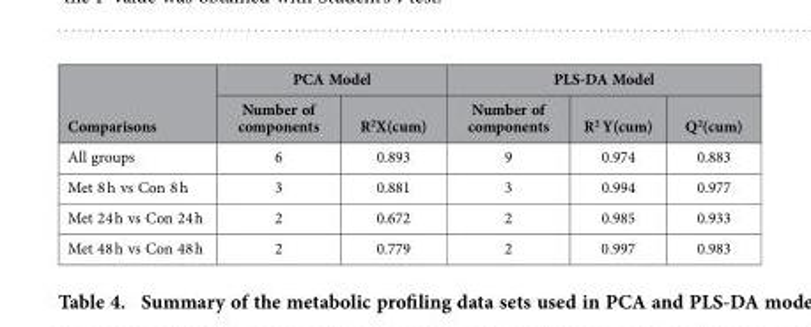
<table><thead><tr><td rowspan="2">Comparisons</td><td colspan="2">PCA Model</td><td colspan="3">PLS-DA Model</td></tr><tr><td>Number of components</td><td>R<sup>2</sup>X(cum)</td><td>Number of components</td><td>R<sup>2</sup> Y(cum)</td><td>Q<sup>2</sup>(cum)</td></tr></thead><tbody><tr><td>All groups</td><td>6</td><td>0.893</td><td>9</td><td>0.974</td><td>0.883</td></tr><tr><td>Met 8 h vs Con 8 h</td><td>3</td><td>0.881</td><td>3</td><td>0.994</td><td>0.977</td></tr><tr><td>Met 24 h vs Con 24 h</td><td>2</td><td>0.672</td><td>2</td><td>0.985</td><td>0.933</td></tr><tr><td>Met 48 h vs Con 48 h</td><td>2</td><td>0.779</td><td>2</td><td>0.997</td><td>0.983</td></tr></tbody></table>